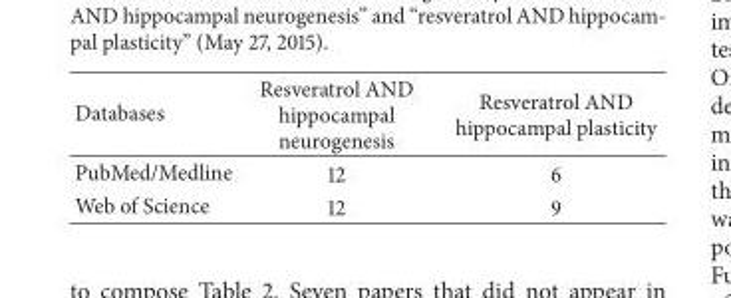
<table><thead><tr><td>Databases</td><td>Resveratrol AND hippocampal neurogenesis</td><td>Resveratrol AND hippocampal plasticity</td></tr></thead><tbody><tr><td>PubMed/Medline</td><td>12</td><td>6</td></tr><tr><td>Web of Science</td><td>12</td><td>9</td></tr></tbody></table>